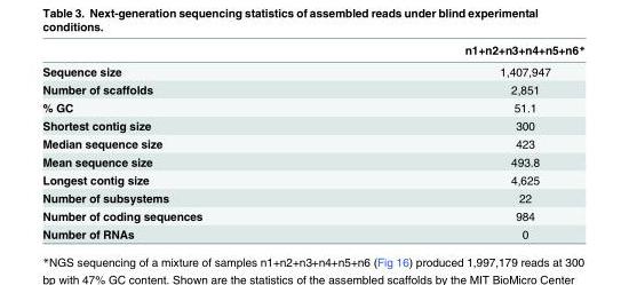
<table><thead><tr><td></td><td>n1+n2+n3+n4+n5+n6*</td></tr></thead><tbody><tr><td>Sequence size</td><td>1,407,947</td></tr><tr><td>Number of scaffolds</td><td>2,851</td></tr><tr><td>% GC</td><td>51.1</td></tr><tr><td>Shortest contig size</td><td>300</td></tr><tr><td>Median sequence size</td><td>423</td></tr><tr><td>Mean sequence size</td><td>493.8</td></tr><tr><td>Longest contig size</td><td>4,625</td></tr><tr><td>Number of subsystems</td><td>22</td></tr><tr><td>Number of coding sequences</td><td>984</td></tr><tr><td>Number of RNAs</td><td>0</td></tr></tbody></table>